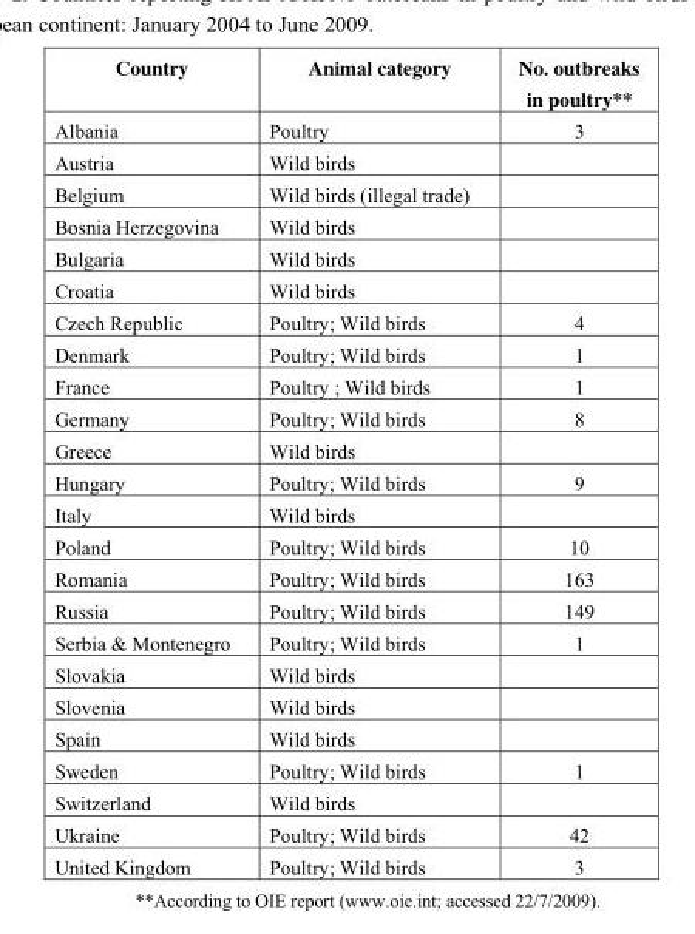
<table><thead><tr><td>Country</td><td>Animal category</td><td>No. outbreaks in poultry**</td></tr></thead><tbody><tr><td>Albania</td><td>Poultry</td><td>3</td></tr><tr><td>Austria</td><td>Wild birds</td><td></td></tr><tr><td>Belgium</td><td>Wild birds (illegal trade)</td><td></td></tr><tr><td>Bosnia Herzegovina</td><td>Wild birds</td><td></td></tr><tr><td>Bulgaria</td><td>Wild birds</td><td></td></tr><tr><td>Croatia</td><td>Wild birds</td><td></td></tr><tr><td>Czech Republic</td><td>Poultry; Wild birds</td><td>4</td></tr><tr><td>Denmark</td><td>Poultry; Wild birds</td><td>1</td></tr><tr><td>France</td><td>Poultry ; Wild birds</td><td>1</td></tr><tr><td>Germany</td><td>Poultry; Wild birds</td><td>8</td></tr><tr><td>Greece</td><td>Wild birds</td><td></td></tr><tr><td>Hungary</td><td>Poultry; Wild birds</td><td>9</td></tr><tr><td>Italy</td><td>Wild birds</td><td></td></tr><tr><td>Poland</td><td>Poultry; Wild birds</td><td>10</td></tr><tr><td>Romania</td><td>Poultry; Wild birds</td><td>163</td></tr><tr><td>Russia</td><td>Poultry; Wild birds</td><td>149</td></tr><tr><td>Serbia &amp; Montenegro</td><td>Poultry; Wild birds</td><td>1</td></tr><tr><td>Slovakia</td><td>Wild birds</td><td></td></tr><tr><td>Slovenia</td><td>Wild birds</td><td></td></tr><tr><td>Spain</td><td>Wild birds</td><td></td></tr><tr><td>Sweden</td><td>Poultry; Wild birds</td><td>1</td></tr><tr><td>Switzerland</td><td>Wild birds</td><td></td></tr><tr><td>Ukraine</td><td>Poultry; Wild birds</td><td>42</td></tr><tr><td>United Kingdom</td><td>Poultry; Wild birds</td><td>3</td></tr></tbody></table>